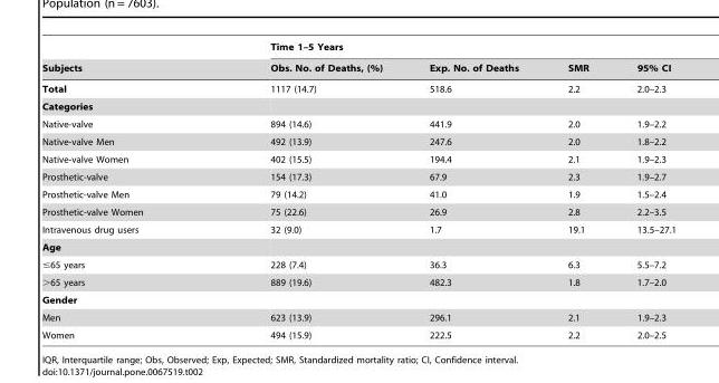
<table><thead><tr><td rowspan="2">Subjects</td><td colspan="4">Time 1–5 Years</td></tr><tr><td>Obs. No. of Deaths, (%)</td><td>Exp. No. of Deaths</td><td>SMR</td><td>95% CI</td></tr></thead><tbody><tr><td>Total</td><td>1117 (14.7)</td><td>518.6</td><td>2.2</td><td>2.0–2.3</td></tr><tr><td colspan="5">Categories</td></tr><tr><td>Native-valve</td><td>894 (14.6)</td><td>441.9</td><td>2.0</td><td>1.9–2.2</td></tr><tr><td>Native-valve Men</td><td>492 (13.9)</td><td>247.6</td><td>2.0</td><td>1.8–2.2</td></tr><tr><td>Native-valve Women</td><td>402 (15.5)</td><td>194.4</td><td>2.1</td><td>1.9–2.3</td></tr><tr><td>Prosthetic-valve</td><td>154 (17.3)</td><td>67.9</td><td>2.3</td><td>1.9–2.7</td></tr><tr><td>Prosthetic-valve Men</td><td>79 (14.2)</td><td>41.0</td><td>1.9</td><td>1.5–2.4</td></tr><tr><td>Prosthetic-valve Women</td><td>75 (22.6)</td><td>26.9</td><td>2.8</td><td>2.2–3.5</td></tr><tr><td>Intravenous drug users</td><td>32 (9.0)</td><td>1.7</td><td>19.1</td><td>13.5–27.1</td></tr><tr><td colspan="5">Age</td></tr><tr><td>≤65 years</td><td>228 (7.4)</td><td>36.3</td><td>6.3</td><td>5.5–7.2</td></tr><tr><td>&gt;65 years</td><td>889 (19.6)</td><td>482.3</td><td>1.8</td><td>1.7–2.0</td></tr><tr><td colspan="5">Gender</td></tr><tr><td>Men</td><td>623 (13.9)</td><td>296.1</td><td>2.1</td><td>1.9–2.3</td></tr><tr><td>Women</td><td>494 (15.9)</td><td>222.5</td><td>2.2</td><td>2.0–2.5</td></tr></tbody></table>